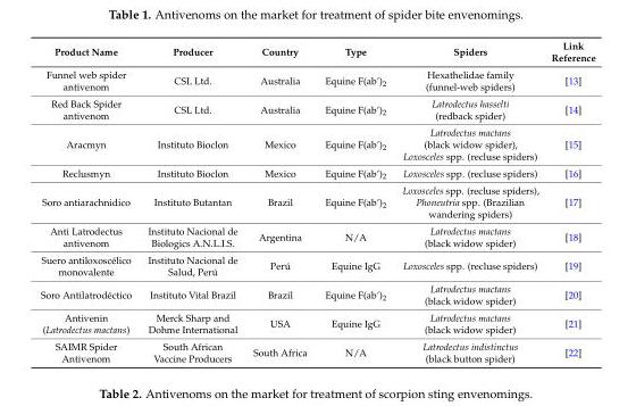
<table><thead><tr><td>Product Name</td><td>Producer</td><td>Country</td><td>Type</td><td>Spiders</td><td>Link Reference</td></tr></thead><tbody><tr><td>Funnel web spider antivenom</td><td>CSL Ltd.</td><td>Australia</td><td>Equine F(ab’)<sub>2</sub></td><td>Hexathelidae family (funnel-web spiders)</td><td>[13]</td></tr><tr><td>Red Back Spider antivenom</td><td>CSL Ltd.</td><td>Australia</td><td>Equine F(ab’)<sub>2</sub></td><td>Latrodectus hasselti (redback spider)</td><td>[14]</td></tr><tr><td>Aracmyn</td><td>Instituto Bioclon</td><td>Mexico</td><td>Equine F(ab’)<sub>2</sub></td><td>Latrodectus mactans (black widow spider), Loxosceles spp. (recluse spiders)</td><td>[15]</td></tr><tr><td>Reclusmyn</td><td>Instituto Bioclon</td><td>Mexico</td><td>Equine F(ab’)<sub>2</sub></td><td>Loxosceles spp. (recluse spiders)</td><td>[16]</td></tr><tr><td>Soro antiarachnidico</td><td>Instituto Butantan</td><td>Brazil</td><td>Equine F(ab’)<sub>2</sub></td><td>Loxosceles spp. (recluse spiders), Phoneutria spp. (Brazilian wandering spiders)</td><td>[17]</td></tr><tr><td>Anti Latrodectus antivenom</td><td>Instituto Nacional de Biologics A.N.L.I.S.</td><td>Argentina</td><td>N/A</td><td>Latrodectus mactans (black widow spider)</td><td>[18]</td></tr><tr><td>Suero antiloxoscélico monovalente</td><td>Instituto Nacional de Salud, Perú</td><td>Perú</td><td>Equine IgG</td><td>Loxosceles spp. (recluse spiders)</td><td>[19]</td></tr><tr><td>Soro Antilatrodéctico</td><td>Instituto Vital Brazil</td><td>Brazil</td><td>Equine F(ab’)<sub>2</sub></td><td>Latrodectus mactans (black widow spider)</td><td>[20]</td></tr><tr><td>Antivenin (Latrodectus mactans)</td><td>Merck Sharp and Dohme International</td><td>USA</td><td>Equine IgG</td><td>Latrodectus mactans (black widow spider)</td><td>[21]</td></tr><tr><td>SAIMR Spider Antivenom</td><td>South African Vaccine Producers</td><td>South Africa</td><td>N/A</td><td>Latrodectus indistinctus (black button spider)</td><td>[22]</td></tr></tbody></table>